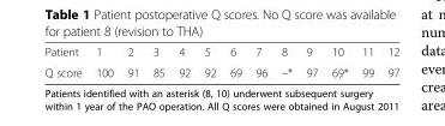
<table><tbody><tr><td>Patient</td><td>1</td><td>2</td><td>3</td><td>4</td><td>5</td><td>6</td><td>7</td><td>8</td><td>9</td><td>10</td><td>11</td><td>12</td></tr><tr><td>Q score</td><td>100</td><td>91</td><td>85</td><td>92</td><td>92</td><td>69</td><td>96</td><td>–*</td><td>97</td><td>69*</td><td>99</td><td>97</td></tr></tbody></table>